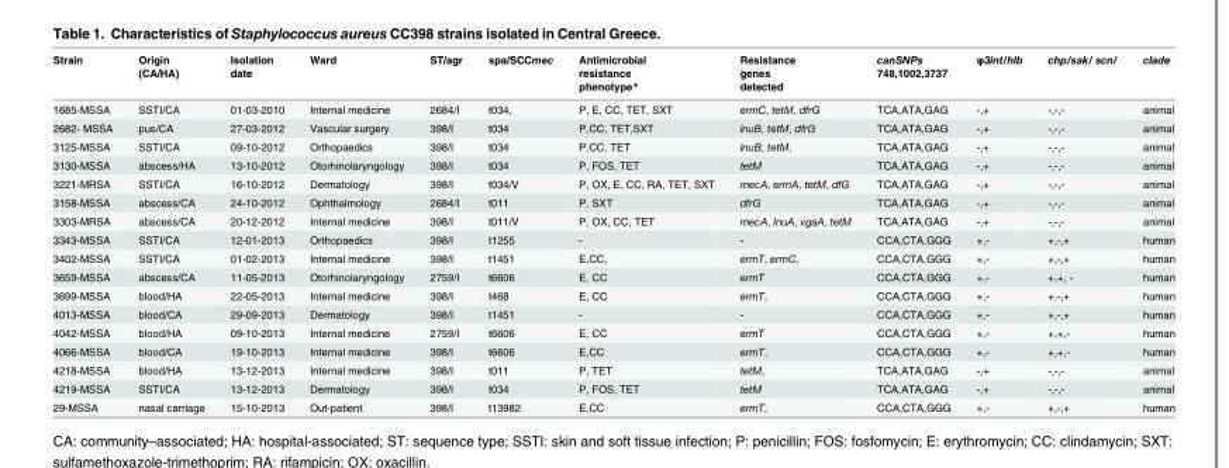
<table><thead><tr><td>Strain</td><td>Origin (CA/HA)</td><td>Isolation date</td><td>Ward</td><td>ST/agr</td><td>spa/SCCmec</td><td>Antimicrobial resistance phenotype*</td><td>Resistance genes detected</td><td>canSNPs 748,1002,3737</td><td>φ3int/hlb</td><td>chp/sak/ scn/</td><td>clade</td></tr></thead><tbody><tr><td>1685-MSSA</td><td>SSTI/CA</td><td>01-03-2010</td><td>Internal medicine</td><td>2684/I</td><td>t034,</td><td>P, E, CC, TET, SXT</td><td>ermC, tetM, dfrG</td><td>TCA,ATA,GAG</td><td>-,+</td><td>-,-,-</td><td>animal</td></tr><tr><td>2682- MSSA</td><td>pus/CA</td><td>27-03-2012</td><td>Vascular surgery</td><td>398/I</td><td>t034</td><td>P,CC, TET,SXT</td><td>lnuB, tetM, dfrG</td><td>TCA,ATA,GAG</td><td>-,+</td><td>-,-,-</td><td>animal</td></tr><tr><td>3125-MSSA</td><td>SSTI/CA</td><td>09-10-2012</td><td>Orthopaedics</td><td>398/I</td><td>t034</td><td>P,CC, TET</td><td>lnuB, tetM,</td><td>TCA,ATA,GAG</td><td>-,+</td><td>-,-,-</td><td>animal</td></tr><tr><td>3130-MSSA</td><td>abscess/HA</td><td>13-10-2012</td><td>Otorhinolaryngology</td><td>398/I</td><td>t034</td><td>P, FOS, TET</td><td>tetM</td><td>TCA,ATA,GAG</td><td>-,+</td><td>-,-,-</td><td>animal</td></tr><tr><td>3221-MRSA</td><td>SSTI/CA</td><td>16-10-2012</td><td>Dermatology</td><td>398/I</td><td>t034/V</td><td>P, OX, E, CC, RA, TET, SXT</td><td>mecA, ermA, tetM, dfG</td><td>TCA,ATA,GAG</td><td>-,+</td><td>-,-,-</td><td>animal</td></tr><tr><td>3158-MSSA</td><td>abscess/CA</td><td>24-10-2012</td><td>Ophthalmology</td><td>2684/I</td><td>t011</td><td>P, SXT</td><td>dfrG</td><td>TCA,ATA,GAG</td><td>-,+</td><td>-,-,-</td><td>animal</td></tr><tr><td>3303-MRSA</td><td>abscess/CA</td><td>20-12-2012</td><td>Internal medicine</td><td>398/I</td><td>t011/V</td><td>P, OX, CC, TET</td><td>mecA, lnuA, vgaA, tetM</td><td>TCA,ATA,GAG</td><td>-,+</td><td>-,-,-</td><td>animal</td></tr><tr><td>3343-MSSA</td><td>SSTI/CA</td><td>12-01-2013</td><td>Orthopaedics</td><td>398/I</td><td>t1255</td><td>-</td><td>-</td><td>CCA,CTA,GGG</td><td>+,-</td><td>+,-,+</td><td>human</td></tr><tr><td>3402-MSSA</td><td>SSTI/CA</td><td>01-02-2013</td><td>Internal medicine</td><td>398/I</td><td>t1451</td><td>E,CC,</td><td>ermT, ermC,</td><td>CCA,CTA,GGG</td><td>+,-</td><td>+,-,+</td><td>human</td></tr><tr><td>3659-MSSA</td><td>abscess/CA</td><td>11-05-2013</td><td>Otorhinolaryngology</td><td>2759/I</td><td>t6606</td><td>E, CC</td><td>ermT</td><td>CCA,CTA,GGG</td><td>+,-</td><td>+,+, -</td><td>human</td></tr><tr><td>3699-MSSA</td><td>blood/HA</td><td>22-05-2013</td><td>Internal medicine</td><td>398/I</td><td>t468</td><td>E, CC</td><td>ermT,</td><td>CCA,CTA,GGG</td><td>+,-</td><td>+,-,+</td><td>human</td></tr><tr><td>4013-MSSA</td><td>blood/CA</td><td>29-09-2013</td><td>Dermatology</td><td>398/I</td><td>t1451</td><td>-</td><td>-</td><td>CCA,CTA,GGG</td><td>+,-</td><td>+,-,+</td><td>human</td></tr><tr><td>4042-MSSA</td><td>blood/HA</td><td>09-10-2013</td><td>Internal medicine</td><td>2759/I</td><td>t6606</td><td>E, CC</td><td>ermT</td><td>CCA,CTA,GGG</td><td>+,-</td><td>+,+,-</td><td>human</td></tr><tr><td>4066-MSSA</td><td>blood/CA</td><td>19-10-2013</td><td>Internal medicine</td><td>398/I</td><td>t6606</td><td>E,CC</td><td>ermT,</td><td>CCA,CTA,GGG</td><td>+,-</td><td>+,+,-</td><td>human</td></tr><tr><td>4218-MSSA</td><td>blood/HA</td><td>13-12-2013</td><td>Internal medicine</td><td>398/I</td><td>t011</td><td>P, TET</td><td>tetM,</td><td>TCA,ATA,GAG</td><td>-,+</td><td>-,-,-</td><td>animal</td></tr><tr><td>4219-MSSA</td><td>SSTI/CA</td><td>13-12-2013</td><td>Dermatology</td><td>398/I</td><td>t034</td><td>P, FOS, TET</td><td>tetM</td><td>TCA,ATA,GAG</td><td>-,+</td><td>-,-,-</td><td>animal</td></tr><tr><td>29-MSSA</td><td>nasal carriage</td><td>15-10-2013</td><td>Out-patient</td><td>398/I</td><td>t13982</td><td>E,CC</td><td>ermT,</td><td>CCA,CTA,GGG</td><td>+,-</td><td>+,-,+</td><td>human</td></tr></tbody></table>